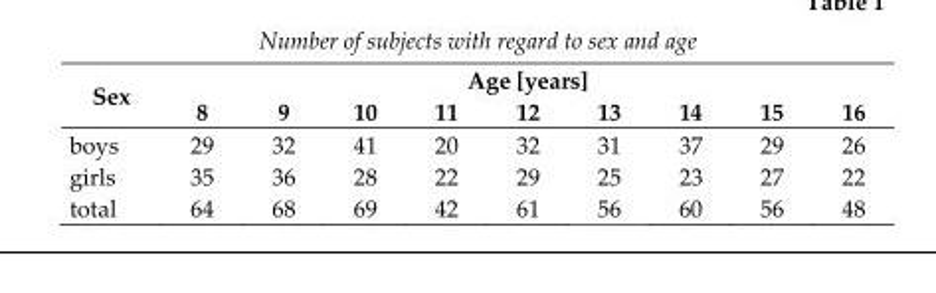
<table><thead><tr><td rowspan="2">Sex</td><td colspan="9">Age [years]</td></tr><tr><td>8</td><td>9</td><td>10</td><td>11</td><td>12</td><td>13</td><td>14</td><td>15</td><td>16</td></tr></thead><tbody><tr><td>boys</td><td>29</td><td>32</td><td>41</td><td>20</td><td>32</td><td>31</td><td>37</td><td>29</td><td>26</td></tr><tr><td>girls</td><td>35</td><td>36</td><td>28</td><td>22</td><td>29</td><td>25</td><td>23</td><td>27</td><td>22</td></tr><tr><td>total</td><td>64</td><td>68</td><td>69</td><td>42</td><td>61</td><td>56</td><td>60</td><td>56</td><td>48</td></tr></tbody></table>